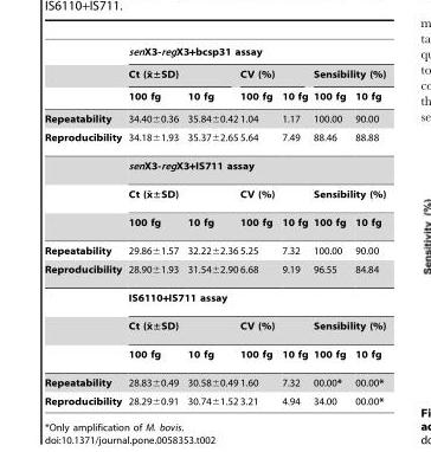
<table><thead><tr><td rowspan="3"></td><td colspan="6">senX3-regX3+bcsp31 assay</td></tr><tr><td colspan="2">Ct (x¯±SD)</td><td colspan="2">CV (%)</td><td colspan="2">Sensibility (%)</td></tr><tr><td>100 fg</td><td>10 fg</td><td>100 fg</td><td>10 fg</td><td>100 fg</td><td>10 fg</td></tr></thead><tbody><tr><td>Repeatability</td><td>34.40±0.36</td><td>35.84±0.42</td><td>1.04</td><td>1.17</td><td>100.00</td><td>90.00</td></tr><tr><td rowspan="4">Reproducibility</td><td>34.18±1.93</td><td>35.37±2.65</td><td>5.64</td><td>7.49</td><td>88.46</td><td>88.88</td></tr><tr><td colspan="6">senX3-regX3+IS711 assay</td></tr><tr><td colspan="2">Ct (x¯±SD)</td><td colspan="2">CV (%)</td><td colspan="2">Sensibility (%)</td></tr><tr><td>100 fg</td><td>10 fg</td><td>100 fg</td><td>10 fg</td><td>100 fg</td><td>10 fg</td></tr><tr><td>Repeatability</td><td>29.86±1.57</td><td>32.22±2.36</td><td>5.25</td><td>7.32</td><td>100.00</td><td>90.00</td></tr><tr><td rowspan="4">Reproducibility</td><td>28.90±1.93</td><td>31.54±2.90</td><td>6.68</td><td>9.19</td><td>96.55</td><td>84.84</td></tr><tr><td colspan="6">IS6110+IS711 assay</td></tr><tr><td colspan="2">Ct (x¯±SD)</td><td colspan="2">CV (%)</td><td colspan="2">Sensibility (%)</td></tr><tr><td>100 fg</td><td>10 fg</td><td>100 fg</td><td>10 fg</td><td>100 fg</td><td>10 fg</td></tr><tr><td>Repeatability</td><td>28.83±0.49</td><td>30.58±0.49</td><td>1.60</td><td>7.32</td><td>00.00*</td><td>00.00*</td></tr><tr><td>Reproducibility</td><td>28.29±0.91</td><td>30.74±1.52</td><td>3.21</td><td>4.94</td><td>34.00</td><td>00.00*</td></tr></tbody></table>